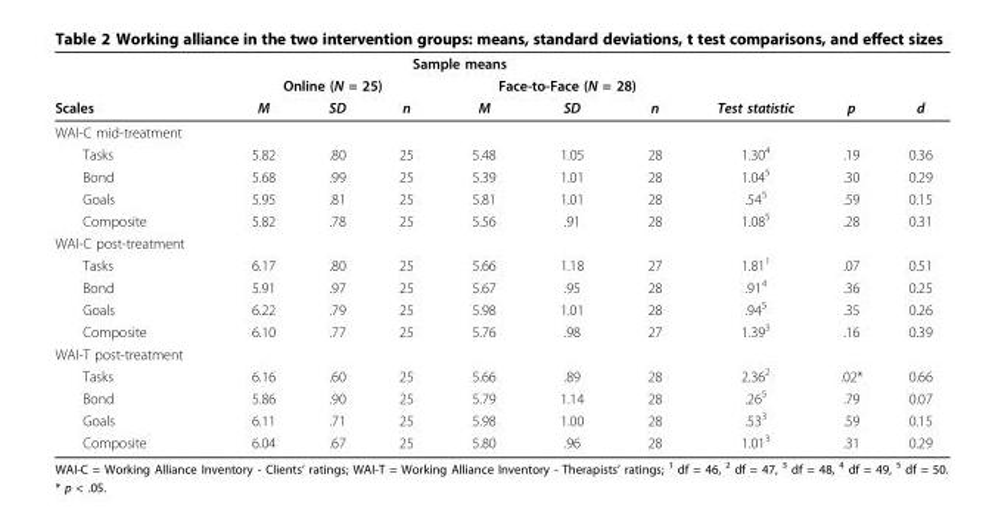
<table><thead><tr><td rowspan="3">Scales</td><td colspan="6">Sample means</td><td rowspan="3">Test statistic</td><td rowspan="3">p</td><td rowspan="3">d</td></tr><tr><td colspan="3">Online (N = 25)</td><td colspan="3">Face-to-Face (N = 28)</td></tr><tr><td>M</td><td>SD</td><td>n</td><td>M</td><td>SD</td><td>n</td></tr></thead><tbody><tr><td colspan="10">WAI-C mid-treatment</td></tr><tr><td>Tasks</td><td>5.82</td><td>.80</td><td>25</td><td>5.48</td><td>1.05</td><td>28</td><td>1.30<sup>4</sup></td><td>.19</td><td>0.36</td></tr><tr><td>Bond</td><td>5.68</td><td>.99</td><td>25</td><td>5.39</td><td>1.01</td><td>28</td><td>1.04<sup>5</sup></td><td>.30</td><td>0.29</td></tr><tr><td>Goals</td><td>5.95</td><td>.81</td><td>25</td><td>5.81</td><td>1.01</td><td>28</td><td>.54<sup>5</sup></td><td>.59</td><td>0.15</td></tr><tr><td>Composite</td><td>5.82</td><td>.78</td><td>25</td><td>5.56</td><td>.91</td><td>28</td><td>1.08<sup>5</sup></td><td>.28</td><td>0.31</td></tr><tr><td colspan="10">WAI-C post-treatment</td></tr><tr><td>Tasks</td><td>6.17</td><td>.80</td><td>25</td><td>5.66</td><td>1.18</td><td>27</td><td>1.81<sup>1</sup></td><td>.07</td><td>0.51</td></tr><tr><td>Bond</td><td>5.91</td><td>.97</td><td>25</td><td>5.67</td><td>.95</td><td>28</td><td>.91<sup>4</sup></td><td>.36</td><td>0.25</td></tr><tr><td>Goals</td><td>6.22</td><td>.79</td><td>25</td><td>5.98</td><td>1.01</td><td>28</td><td>.94<sup>5</sup></td><td>.35</td><td>0.26</td></tr><tr><td>Composite</td><td>6.10</td><td>.77</td><td>25</td><td>5.76</td><td>.98</td><td>27</td><td>1.39<sup>3</sup></td><td>.16</td><td>0.39</td></tr><tr><td colspan="10">WAI-T post-treatment</td></tr><tr><td>Tasks</td><td>6.16</td><td>.60</td><td>25</td><td>5.66</td><td>.89</td><td>28</td><td>2.36<sup>2</sup></td><td>.02*</td><td>0.66</td></tr><tr><td>Bond</td><td>5.86</td><td>.90</td><td>25</td><td>5.79</td><td>1.14</td><td>28</td><td>.26<sup>5</sup></td><td>.79</td><td>0.07</td></tr><tr><td>Goals</td><td>6.11</td><td>.71</td><td>25</td><td>5.98</td><td>1.00</td><td>28</td><td>.53<sup>3</sup></td><td>.59</td><td>0.15</td></tr><tr><td>Composite</td><td>6.04</td><td>.67</td><td>25</td><td>5.80</td><td>.96</td><td>28</td><td>1.01<sup>3</sup></td><td>.31</td><td>0.29</td></tr></tbody></table>